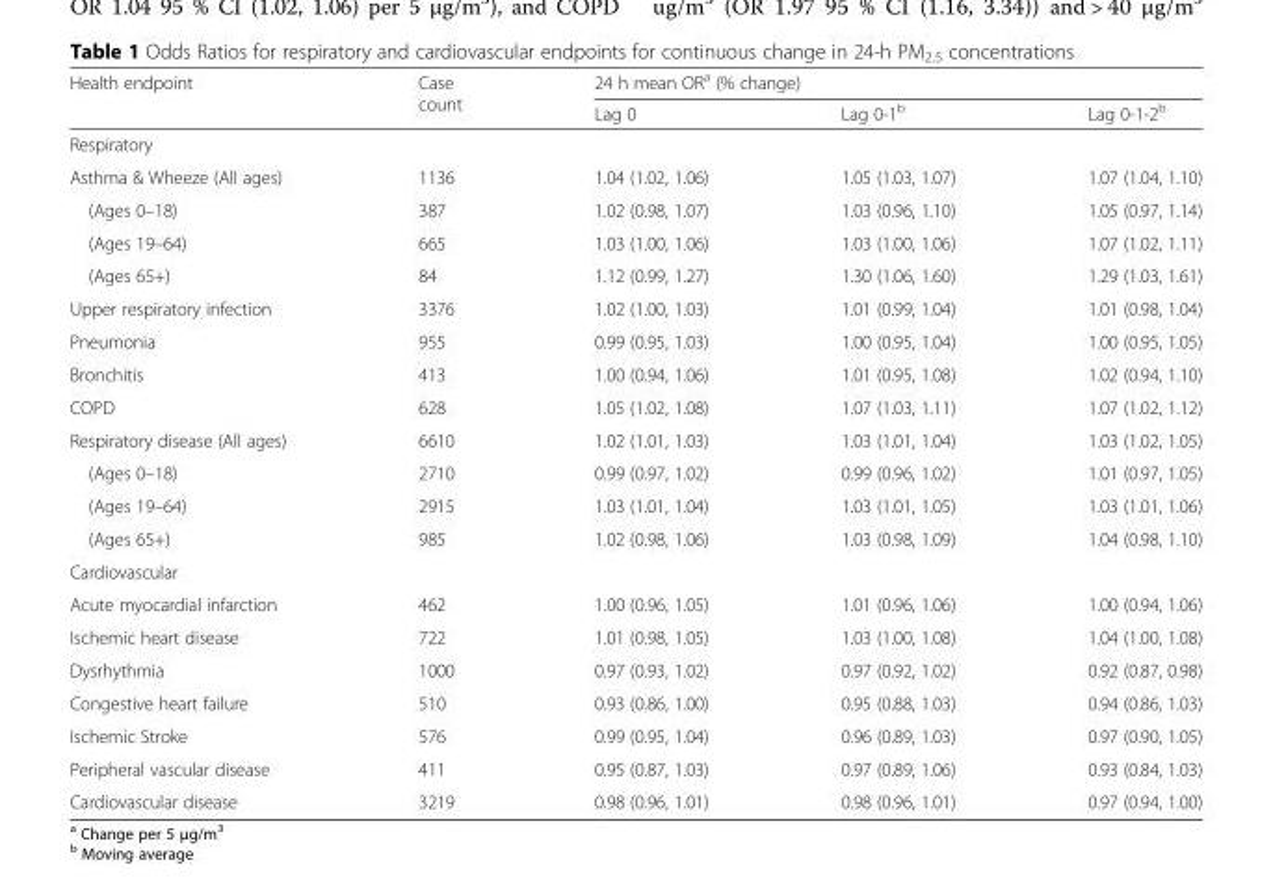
<table><thead><tr><td rowspan="2">Health endpoint</td><td rowspan="2">Case count</td><td colspan="3">24 h mean OR<sup>a</sup> (% change)</td></tr><tr><td>Lag 0</td><td>Lag 0-1<sup>b</sup></td><td>Lag 0-1-2<sup>b</sup></td></tr></thead><tbody><tr><td colspan="5">Respiratory</td></tr><tr><td>Asthma &amp; Wheeze (All ages)</td><td>1136</td><td>1.04 (1.02, 1.06)</td><td>1.05 (1.03, 1.07)</td><td>1.07 (1.04, 1.10)</td></tr><tr><td>(Ages 0–18)</td><td>387</td><td>1.02 (0.98, 1.07)</td><td>1.03 (0.96, 1.10)</td><td>1.05 (0.97, 1.14)</td></tr><tr><td>(Ages 19–64)</td><td>665</td><td>1.03 (1.00, 1.06)</td><td>1.03 (1.00, 1.06)</td><td>1.07 (1.02, 1.11)</td></tr><tr><td>(Ages 65+)</td><td>84</td><td>1.12 (0.99, 1.27)</td><td>1.30 (1.06, 1.60)</td><td>1.29 (1.03, 1.61)</td></tr><tr><td>Upper respiratory infection</td><td>3376</td><td>1.02 (1.00, 1.03)</td><td>1.01 (0.99, 1.04)</td><td>1.01 (0.98, 1.04)</td></tr><tr><td>Pneumonia</td><td>955</td><td>0.99 (0.95, 1.03)</td><td>1.00 (0.95, 1.04)</td><td>1.00 (0.95, 1.05)</td></tr><tr><td>Bronchitis</td><td>413</td><td>1.00 (0.94, 1.06)</td><td>1.01 (0.95, 1.08)</td><td>1.02 (0.94, 1.10)</td></tr><tr><td>COPD</td><td>628</td><td>1.05 (1.02, 1.08)</td><td>1.07 (1.03, 1.11)</td><td>1.07 (1.02, 1.12)</td></tr><tr><td>Respiratory disease (All ages)</td><td>6610</td><td>1.02 (1.01, 1.03)</td><td>1.03 (1.01, 1.04)</td><td>1.03 (1.02, 1.05)</td></tr><tr><td>(Ages 0–18)</td><td>2710</td><td>0.99 (0.97, 1.02)</td><td>0.99 (0.96, 1.02)</td><td>1.01 (0.97, 1.05)</td></tr><tr><td>(Ages 19–64)</td><td>2915</td><td>1.03 (1.01, 1.04)</td><td>1.03 (1.01, 1.05)</td><td>1.03 (1.01, 1.06)</td></tr><tr><td>(Ages 65+)</td><td>985</td><td>1.02 (0.98, 1.06)</td><td>1.03 (0.98, 1.09)</td><td>1.04 (0.98, 1.10)</td></tr><tr><td colspan="5">Cardiovascular</td></tr><tr><td>Acute myocardial infarction</td><td>462</td><td>1.00 (0.96, 1.05)</td><td>1.01 (0.96, 1.06)</td><td>1.00 (0.94, 1.06)</td></tr><tr><td>Ischemic heart disease</td><td>722</td><td>1.01 (0.98, 1.05)</td><td>1.03 (1.00, 1.08)</td><td>1.04 (1.00, 1.08)</td></tr><tr><td>Dysrhythmia</td><td>1000</td><td>0.97 (0.93, 1.02)</td><td>0.97 (0.92, 1.02)</td><td>0.92 (0.87, 0.98)</td></tr><tr><td>Congestive heart failure</td><td>510</td><td>0.93 (0.86, 1.00)</td><td>0.95 (0.88, 1.03)</td><td>0.94 (0.86, 1.03)</td></tr><tr><td>Ischemic Stroke</td><td>576</td><td>0.99 (0.95, 1.04)</td><td>0.96 (0.89, 1.03)</td><td>0.97 (0.90, 1.05)</td></tr><tr><td>Peripheral vascular disease</td><td>411</td><td>0.95 (0.87, 1.03)</td><td>0.97 (0.89, 1.06)</td><td>0.93 (0.84, 1.03)</td></tr><tr><td>Cardiovascular disease</td><td>3219</td><td>0.98 (0.96, 1.01)</td><td>0.98 (0.96, 1.01)</td><td>0.97 (0.94, 1.00)</td></tr></tbody></table>